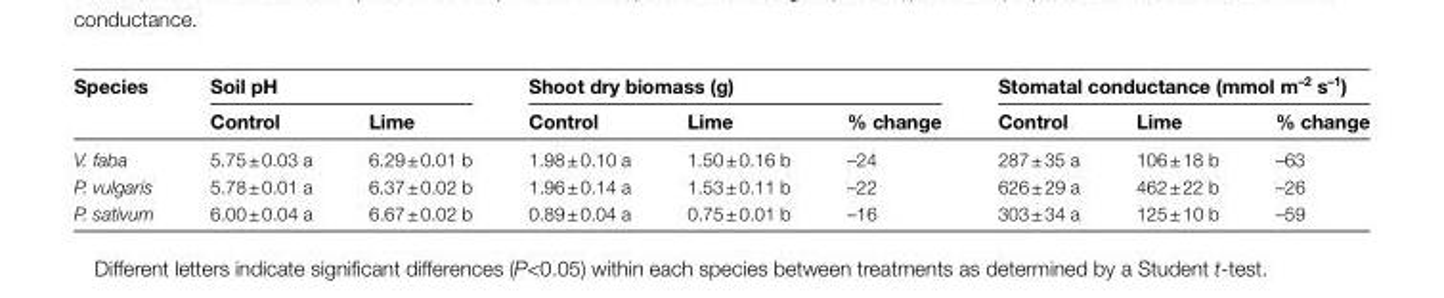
<table><thead><tr><td rowspan="2">Species</td><td colspan="2">Soil pH</td><td colspan="3">Shoot dry biomass (g)</td><td colspan="3">Stomatal conductance (mmol m<sup>–2</sup> s<sup>–1</sup>)</td></tr><tr><td>Control</td><td>Lime</td><td>Control</td><td>Lime</td><td>% change</td><td>Control</td><td>Lime</td><td>% change</td></tr></thead><tbody><tr><td>V. faba</td><td>5.75 ± 0.03 a</td><td>6.29 ± 0.01 b</td><td>1.98 ± 0.10 a</td><td>1.50 ± 0.16 b</td><td>–24</td><td>287 ± 35 a</td><td>106 ± 18 b</td><td>–63</td></tr><tr><td>P. vulgaris</td><td>5.78 ± 0.01 a</td><td>6.37 ± 0.02 b</td><td>1.96 ± 0.14 a</td><td>1.53 ± 0.11 b</td><td>–22</td><td>626 ± 29 a</td><td>462 ± 22 b</td><td>–26</td></tr><tr><td>P. sativum</td><td>6.00 ± 0.04 a</td><td>6.67 ± 0.02 b</td><td>0.89 ± 0.04 a</td><td>0.75 ± 0.01 b</td><td>–16</td><td>303 ± 34 a</td><td>125 ± 10 b</td><td>–59</td></tr></tbody></table>